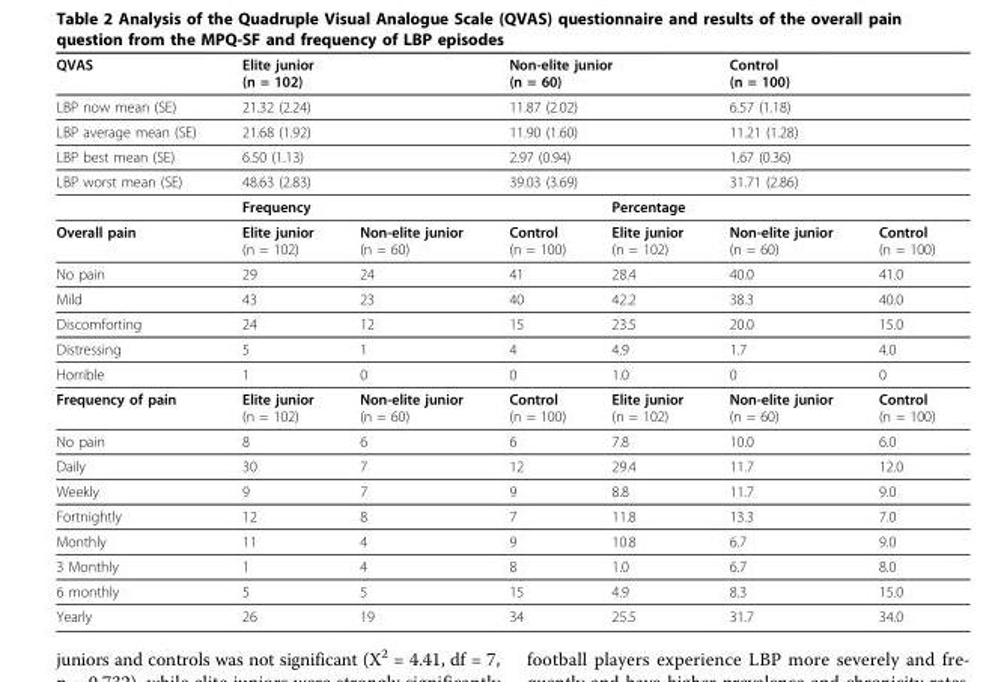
<table><thead><tr><td>QVAS</td><td colspan="2">Elite junior (n = 102)</td><td colspan="2">Non-elite junior (n = 60)</td><td colspan="2">Control (n = 100)</td></tr></thead><tbody><tr><td>LBP now mean (SE)</td><td colspan="2">21.32 (2.24)</td><td colspan="2">11.87 (2.02)</td><td colspan="2">6.57 (1.18)</td></tr><tr><td>LBP average mean (SE)</td><td colspan="2">21.68 (1.92)</td><td colspan="2">11.90 (1.60)</td><td colspan="2">11.21 (1.28)</td></tr><tr><td>LBP best mean (SE)</td><td colspan="2">6.50 (1.13)</td><td colspan="2">2.97 (0.94)</td><td colspan="2">1.67 (0.36)</td></tr><tr><td rowspan="2">LBP worst mean (SE)</td><td colspan="2">48.63 (2.83)</td><td colspan="2">39.03 (3.69)</td><td colspan="2">31.71 (2.86)</td></tr><tr><td colspan="3">Frequency</td><td colspan="3">Percentage</td></tr><tr><td>Overall pain</td><td>Elite junior (n = 102)</td><td>Non-elite junior (n = 60)</td><td>Control (n = 100)</td><td>Elite junior (n = 102)</td><td>Non-elite junior (n = 60)</td><td>Control (n = 100)</td></tr><tr><td>No pain</td><td>29</td><td>24</td><td>41</td><td>28.4</td><td>40.0</td><td>41.0</td></tr><tr><td>Mild</td><td>43</td><td>23</td><td>40</td><td>42.2</td><td>38.3</td><td>40.0</td></tr><tr><td>Discomforting</td><td>24</td><td>12</td><td>15</td><td>23.5</td><td>20.0</td><td>15.0</td></tr><tr><td>Distressing</td><td>5</td><td>1</td><td>4</td><td>4.9</td><td>1.7</td><td>4.0</td></tr><tr><td>Horrible</td><td>1</td><td>0</td><td>0</td><td>1.0</td><td>0</td><td>0</td></tr><tr><td>Frequency of pain</td><td>Elite junior (n = 102)</td><td>Non-elite junior (n = 60)</td><td>Control (n = 100)</td><td>Elite junior (n = 102)</td><td>Non-elite junior (n = 60)</td><td>Control (n = 100)</td></tr><tr><td>No pain</td><td>8</td><td>6</td><td>6</td><td>7.8</td><td>10.0</td><td>6.0</td></tr><tr><td>Daily</td><td>30</td><td>7</td><td>12</td><td>29.4</td><td>11.7</td><td>12.0</td></tr><tr><td>Weekly</td><td>9</td><td>7</td><td>9</td><td>8.8</td><td>11.7</td><td>9.0</td></tr><tr><td>Fortnightly</td><td>12</td><td>8</td><td>7</td><td>11.8</td><td>13.3</td><td>7.0</td></tr><tr><td>Monthly</td><td>11</td><td>4</td><td>9</td><td>10.8</td><td>6.7</td><td>9.0</td></tr><tr><td>3 Monthly</td><td>1</td><td>4</td><td>8</td><td>1.0</td><td>6.7</td><td>8.0</td></tr><tr><td>6 monthly</td><td>5</td><td>5</td><td>15</td><td>4.9</td><td>8.3</td><td>15.0</td></tr><tr><td>Yearly</td><td>26</td><td>19</td><td>34</td><td>25.5</td><td>31.7</td><td>34.0</td></tr></tbody></table>